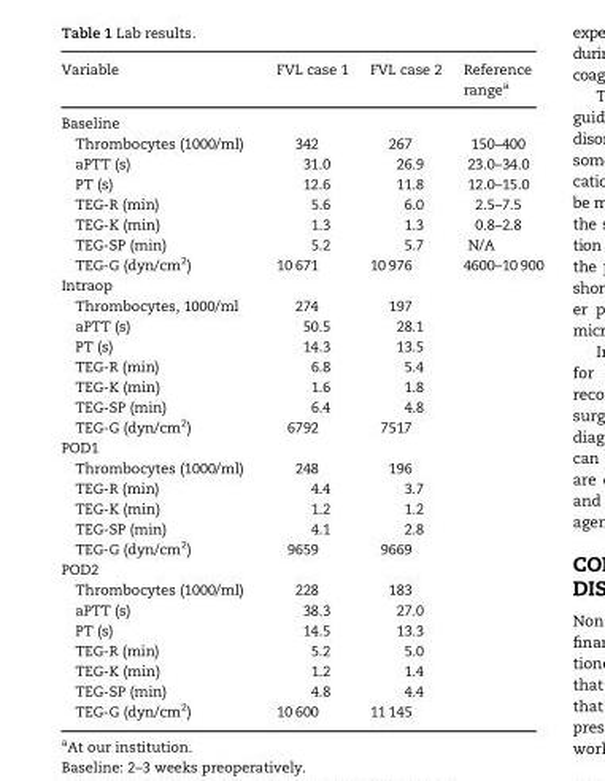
<table><thead><tr><td>Variable</td><td>FVL case 1</td><td>FVL case 2</td><td>Reference range<sup>a</sup></td></tr></thead><tbody><tr><td colspan="4">Baseline</td></tr><tr><td>Thrombocytes (1000/ml)</td><td>342</td><td>267</td><td>150–400</td></tr><tr><td>aPTT (s)</td><td>31.0</td><td>26.9</td><td>23.0–34.0</td></tr><tr><td>PT (s)</td><td>12.6</td><td>11.8</td><td>12.0–15.0</td></tr><tr><td>TEG-R (min)</td><td>5.6</td><td>6.0</td><td>2.5–7.5</td></tr><tr><td>TEG-K (min)</td><td>1.3</td><td>1.3</td><td>0.8–2.8</td></tr><tr><td>TEG-SP (min)</td><td>5.2</td><td>5.7</td><td>N/A</td></tr><tr><td>TEG-G (dyn/cm<sup>2</sup>)</td><td>10 671</td><td>10 976</td><td>4600–10 900</td></tr><tr><td colspan="3">Intraop</td><td rowspan="22"></td></tr><tr><td>Thrombocytes, 1000/ml</td><td>274</td><td>197</td></tr><tr><td>aPTT (s)</td><td>50.5</td><td>28.1</td></tr><tr><td>PT (s)</td><td>14.3</td><td>13.5</td></tr><tr><td>TEG-R (min)</td><td>6.8</td><td>5.4</td></tr><tr><td>TEG-K (min)</td><td>1.6</td><td>1.8</td></tr><tr><td>TEG-SP (min)</td><td>6.4</td><td>4.8</td></tr><tr><td>TEG-G (dyn/cm<sup>2</sup>)</td><td>6792</td><td>7517</td></tr><tr><td colspan="3">POD1</td></tr><tr><td>Thrombocytes (1000/ml)</td><td>248</td><td>196</td></tr><tr><td>TEG-R (min)</td><td>4.4</td><td>3.7</td></tr><tr><td>TEG-K (min)</td><td>1.2</td><td>1.2</td></tr><tr><td>TEG-SP (min)</td><td>4.1</td><td>2.8</td></tr><tr><td>TEG-G (dyn/cm<sup>2</sup>)</td><td>9659</td><td>9669</td></tr><tr><td colspan="3">POD2</td></tr><tr><td>Thrombocytes (1000/ml)</td><td>228</td><td>183</td></tr><tr><td>aPTT (s)</td><td>38.3</td><td>27.0</td></tr><tr><td>PT (s)</td><td>14.5</td><td>13.3</td></tr><tr><td>TEG-R (min)</td><td>5.2</td><td>5.0</td></tr><tr><td>TEG-K (min)</td><td>1.2</td><td>1.4</td></tr><tr><td>TEG-SP (min)</td><td>4.8</td><td>4.4</td></tr><tr><td>TEG-G (dyn/cm<sup>2</sup>)</td><td>10 600</td><td>11 145</td></tr></tbody></table>